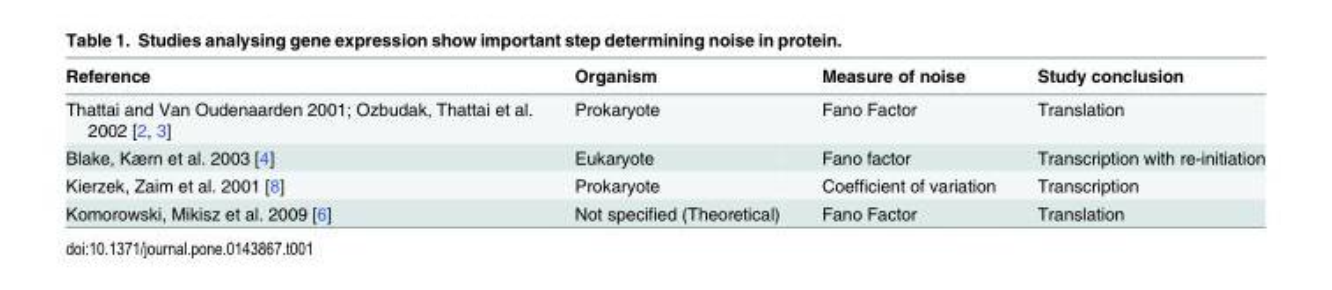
<table><thead><tr><td>Reference</td><td>Organism</td><td>Measure of noise</td><td>Study conclusion</td></tr></thead><tbody><tr><td>Thattai and Van Oudenaarden 2001; Ozbudak, Thattai et al. 2002 [2, 3]</td><td>Prokaryote</td><td>Fano Factor</td><td>Translation</td></tr><tr><td>Blake, Kærn et al. 2003 [4]</td><td>Eukaryote</td><td>Fano factor</td><td>Transcription with re-initiation</td></tr><tr><td>Kierzek, Zaim et al. 2001 [8]</td><td>Prokaryote</td><td>Coefficient of variation</td><td>Transcription</td></tr><tr><td>Komorowski, Mikisz et al. 2009 [6]</td><td>Not specified (Theoretical)</td><td>Fano Factor</td><td>Translation</td></tr></tbody></table>